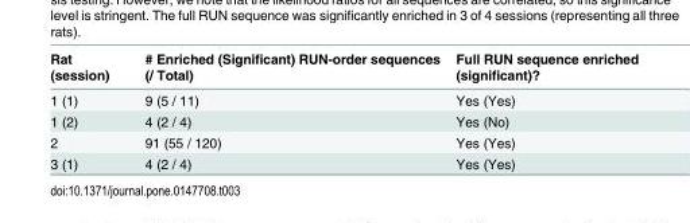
<table><thead><tr><td>Rat (session)</td><td># Enriched (Significant) RUN-order sequences (/ Total)</td><td>Full RUN sequence enriched (significant)?</td></tr></thead><tbody><tr><td>1 (1)</td><td>9 (5 / 11)</td><td>Yes (Yes)</td></tr><tr><td>1 (2)</td><td>4 (2 / 4)</td><td>Yes (No)</td></tr><tr><td>2</td><td>91 (55 / 120)</td><td>Yes (Yes)</td></tr><tr><td>3 (1)</td><td>4 (2 / 4)</td><td>Yes (Yes)</td></tr></tbody></table>